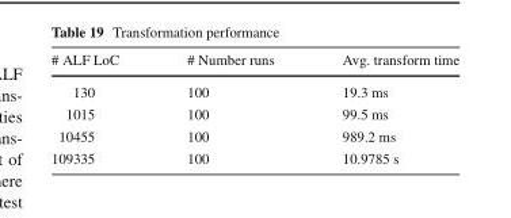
<table><thead><tr><td># ALF LoC</td><td># Number runs</td><td>Avg. transform time</td></tr></thead><tbody><tr><td>130</td><td>100</td><td>19.3 ms</td></tr><tr><td>1015</td><td>100</td><td>99.5 ms</td></tr><tr><td>10455</td><td>100</td><td>989.2 ms</td></tr><tr><td>109335</td><td>100</td><td>10.9785 s</td></tr></tbody></table>